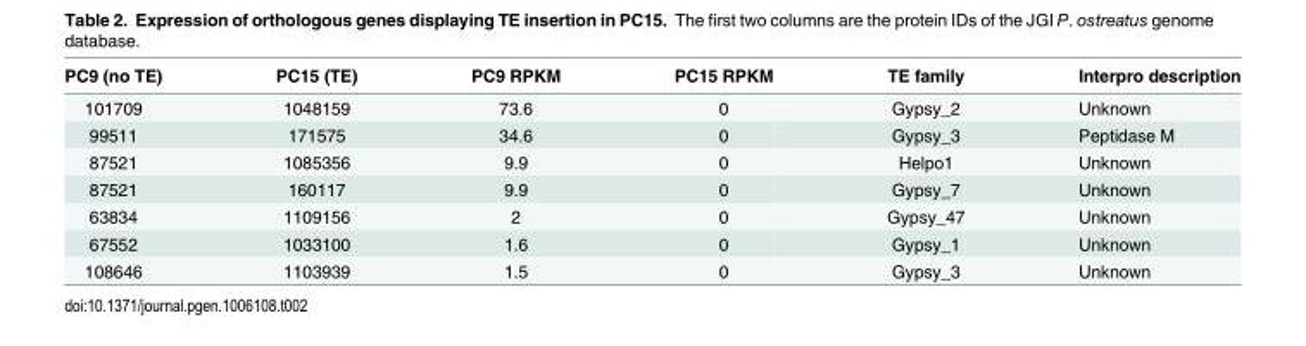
<table><thead><tr><td>PC9 (no TE)</td><td>PC15 (TE)</td><td>PC9 RPKM</td><td>PC15 RPKM</td><td>TE family</td><td>Interpro description</td></tr></thead><tbody><tr><td>101709</td><td>1048159</td><td>73.6</td><td>0</td><td>Gypsy_2</td><td>Unknown</td></tr><tr><td>99511</td><td>171575</td><td>34.6</td><td>0</td><td>Gypsy_3</td><td>Peptidase M</td></tr><tr><td>87521</td><td>1085356</td><td>9.9</td><td>0</td><td>Helpo1</td><td>Unknown</td></tr><tr><td>87521</td><td>160117</td><td>9.9</td><td>0</td><td>Gypsy_7</td><td>Unknown</td></tr><tr><td>63834</td><td>1109156</td><td>2</td><td>0</td><td>Gypsy_47</td><td>Unknown</td></tr><tr><td>67552</td><td>1033100</td><td>1.6</td><td>0</td><td>Gypsy_1</td><td>Unknown</td></tr><tr><td>108646</td><td>1103939</td><td>1.5</td><td>0</td><td>Gypsy_3</td><td>Unknown</td></tr></tbody></table>